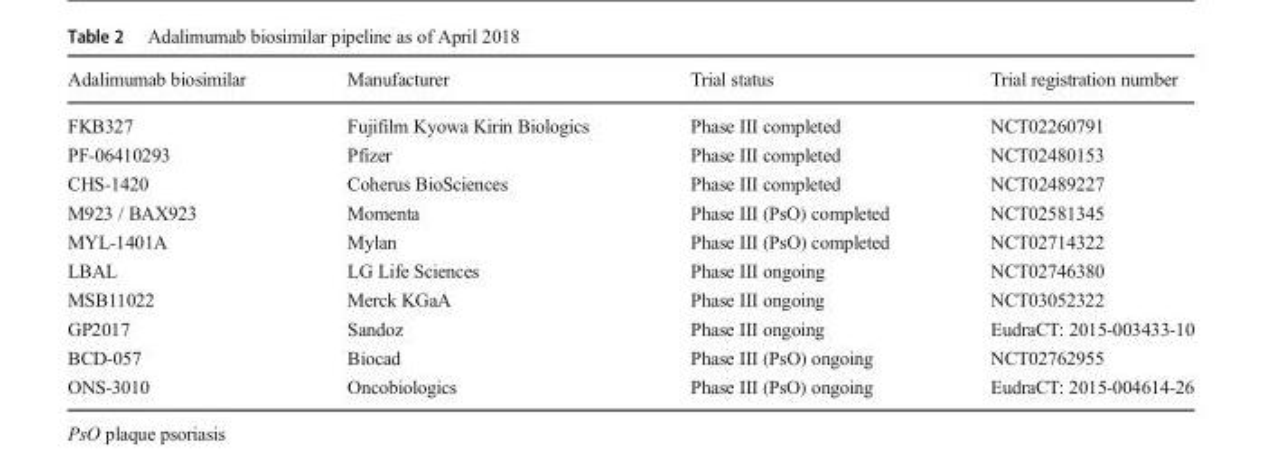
<table><thead><tr><td>Adalimumab biosimilar</td><td>Manufacturer</td><td>Trial status</td><td>Trial registration number</td></tr></thead><tbody><tr><td>FKB327</td><td>Fujifilm Kyowa Kirin Biologics</td><td>Phase III completed</td><td>NCT02260791</td></tr><tr><td>PF-06410293</td><td>Pfizer</td><td>Phase III completed</td><td>NCT02480153</td></tr><tr><td>CHS-1420</td><td>Coherus BioSciences</td><td>Phase III completed</td><td>NCT02489227</td></tr><tr><td>M923 / BAX923</td><td>Momenta</td><td>Phase III (PsO) completed</td><td>NCT02581345</td></tr><tr><td>MYL-1401A</td><td>Mylan</td><td>Phase III (PsO) completed</td><td>NCT02714322</td></tr><tr><td>LBAL</td><td>LG Life Sciences</td><td>Phase III ongoing</td><td>NCT02746380</td></tr><tr><td>MSB11022</td><td>Merck KGaA</td><td>Phase III ongoing</td><td>NCT03052322</td></tr><tr><td>GP2017</td><td>Sandoz</td><td>Phase III ongoing</td><td>EudraCT: 2015-003433-10</td></tr><tr><td>BCD-057</td><td>Biocad</td><td>Phase III (PsO) ongoing</td><td>NCT02762955</td></tr><tr><td>ONS-3010</td><td>Oncobiologics</td><td>Phase III (PsO) ongoing</td><td>EudraCT: 2015-004614-26</td></tr></tbody></table>